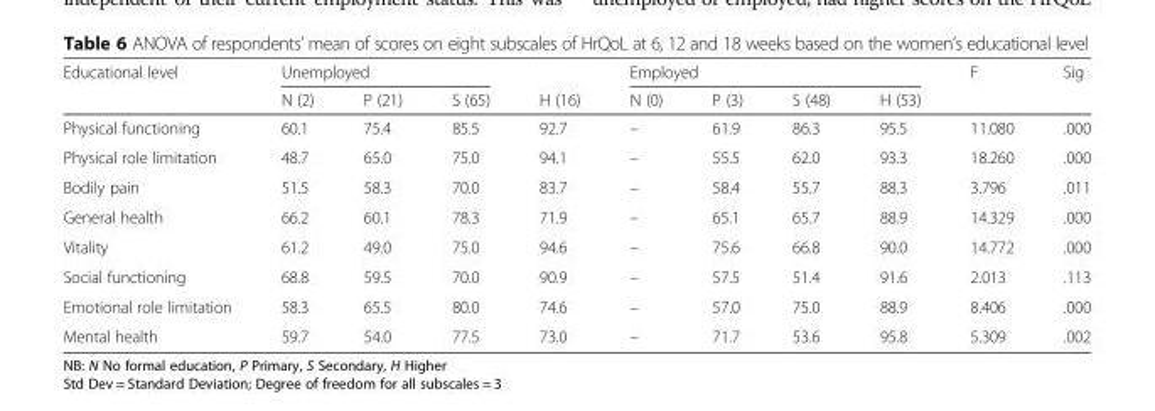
<table><thead><tr><td rowspan="2">Educational level</td><td colspan="3">Unemployed</td><td rowspan="2">H (16)</td><td colspan="4">Employed</td><td rowspan="2">F</td><td rowspan="2">Sig</td></tr><tr><td>N (2)</td><td>P (21)</td><td>S (65)</td><td>N (0)</td><td>P (3)</td><td>S (48)</td><td>H (53)</td></tr></thead><tbody><tr><td>Physical functioning</td><td>60.1</td><td>75.4</td><td>85.5</td><td>92.7</td><td>–</td><td>61.9</td><td>86.3</td><td>95.5</td><td>11.080</td><td>.000</td></tr><tr><td>Physical role limitation</td><td>48.7</td><td>65.0</td><td>75.0</td><td>94.1</td><td>–</td><td>55.5</td><td>62.0</td><td>93.3</td><td>18.260</td><td>.000</td></tr><tr><td>Bodily pain</td><td>51.5</td><td>58.3</td><td>70.0</td><td>83.7</td><td>–</td><td>58.4</td><td>55.7</td><td>88.3</td><td>3.796</td><td>.011</td></tr><tr><td>General health</td><td>66.2</td><td>60.1</td><td>78.3</td><td>71.9</td><td>–</td><td>65.1</td><td>65.7</td><td>88.9</td><td>14.329</td><td>.000</td></tr><tr><td>Vitality</td><td>61.2</td><td>49.0</td><td>75.0</td><td>94.6</td><td>–</td><td>75.6</td><td>66.8</td><td>90.0</td><td>14.772</td><td>.000</td></tr><tr><td>Social functioning</td><td>68.8</td><td>59.5</td><td>70.0</td><td>90.9</td><td>–</td><td>57.5</td><td>51.4</td><td>91.6</td><td>2.013</td><td>.113</td></tr><tr><td>Emotional role limitation</td><td>58.3</td><td>65.5</td><td>80.0</td><td>74.6</td><td>–</td><td>57.0</td><td>75.0</td><td>88.9</td><td>8.406</td><td>.000</td></tr><tr><td>Mental health</td><td>59.7</td><td>54.0</td><td>77.5</td><td>73.0</td><td>–</td><td>71.7</td><td>53.6</td><td>95.8</td><td>5.309</td><td>.002</td></tr></tbody></table>